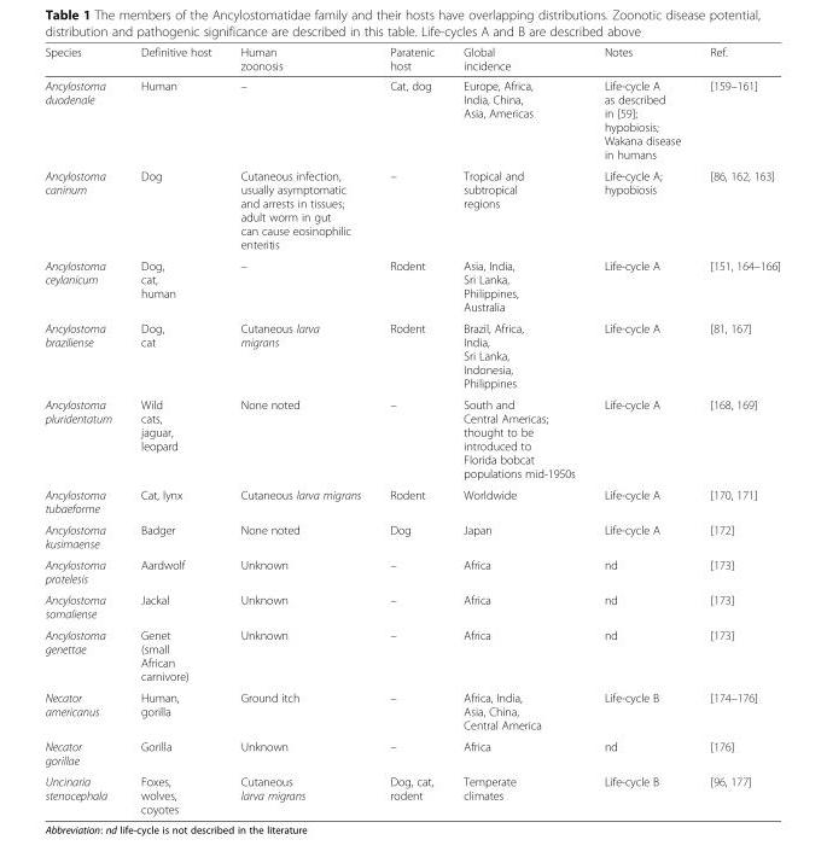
<table><thead><tr><td>Species</td><td>Definitive host</td><td>Human zoonosis</td><td>Paratenic host</td><td>Global incidence</td><td>Notes</td><td>Ref.</td></tr></thead><tbody><tr><td>Ancylostoma duodenale</td><td>Human</td><td>–</td><td>Cat, dog</td><td>Europe, Africa, India, China, Asia, Americas</td><td>Life-cycle A as described in [59]; hypobiosis; Wakana disease in humans</td><td>[159–161]</td></tr><tr><td>Ancylostoma caninum</td><td>Dog</td><td>Cutaneous infection, usually asymptomatic and arrests in tissues; adult worm in gut can cause eosinophilic enteritis</td><td>–</td><td>Tropical and subtropical regions</td><td>Life-cycle A; hypobiosis</td><td>[86, 162, 163]</td></tr><tr><td>Ancylostoma ceylanicum</td><td>Dog, cat, human</td><td>–</td><td>Rodent</td><td>Asia, India, Sri Lanka, Philippines, Australia</td><td>Life-cycle A</td><td>[151, 164–166]</td></tr><tr><td>Ancylostoma braziliense</td><td>Dog, cat</td><td>Cutaneous larva migrans</td><td>Rodent</td><td>Brazil, Africa, India, Sri Lanka, Indonesia, Philippines</td><td>Life-cycle A</td><td>[81, 167]</td></tr><tr><td>Ancylostoma pluridentatum</td><td>Wild cats, jaguar, leopard</td><td>None noted</td><td>–</td><td>South and Central Americas; thought to be introduced to Florida bobcat populations mid-1950s</td><td>Life-cycle A</td><td>[168, 169]</td></tr><tr><td>Ancylostoma tubaeforme</td><td>Cat, lynx</td><td>Cutaneous larva migrans</td><td>Rodent</td><td>Worldwide</td><td>Life-cycle A</td><td>[170, 171]</td></tr><tr><td>Ancylostoma kusimaense</td><td>Badger</td><td>None noted</td><td>Dog</td><td>Japan</td><td>Life-cycle A</td><td>[172]</td></tr><tr><td>Ancylostoma protelesis</td><td>Aardwolf</td><td>Unknown</td><td>–</td><td>Africa</td><td>nd</td><td>[173]</td></tr><tr><td>Ancylostoma somaliense</td><td>Jackal</td><td>Unknown</td><td>–</td><td>Africa</td><td>nd</td><td>[173]</td></tr><tr><td>Ancylostoma genettae</td><td>Genet (small African carnivore)</td><td>Unknown</td><td>–</td><td>Africa</td><td>nd</td><td>[173]</td></tr><tr><td>Necator americanus</td><td>Human, gorilla</td><td>Ground itch</td><td>–</td><td>Africa, India, Asia, China, Central America</td><td>Life-cycle B</td><td>[174–176]</td></tr><tr><td>Necator gorillae</td><td>Gorilla</td><td>Unknown</td><td>–</td><td>Africa</td><td>nd</td><td>[176]</td></tr><tr><td>Uncinaria stenocephala</td><td>Foxes, wolves, coyotes</td><td>Cutaneous larva migrans</td><td>Dog, cat, rodent</td><td>Temperate climates</td><td>Life-cycle B</td><td>[96, 177]</td></tr></tbody></table>